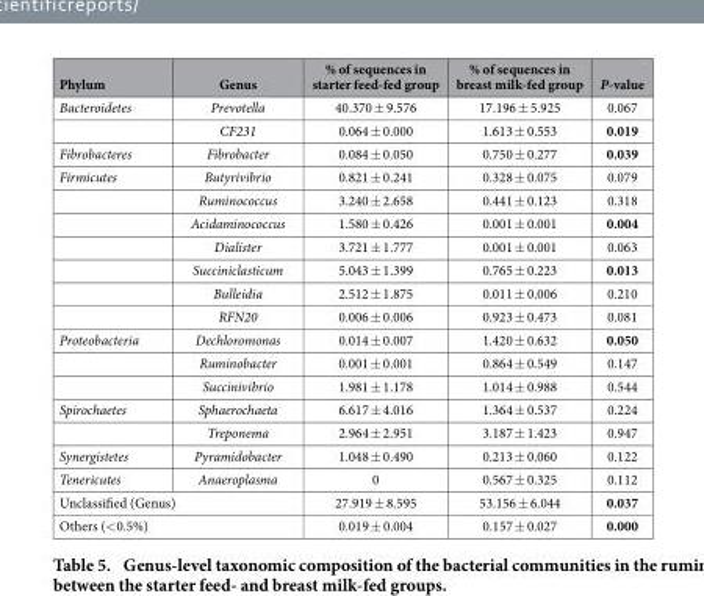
<table><thead><tr><td>Phylum</td><td>Genus</td><td>% of sequences in starter feed-fed group</td><td>% of sequences in breast milk-fed group</td><td>P-value</td></tr></thead><tbody><tr><td rowspan="2">Bacteroidetes</td><td>Prevotella</td><td>40.370 ± 9.576</td><td>17.196 ± 5.925</td><td>0.067</td></tr><tr><td>CF231</td><td>0.064 ± 0.000</td><td>1.613 ± 0.553</td><td>0.019</td></tr><tr><td>Fibrobacteres</td><td>Fibrobacter</td><td>0.084 ± 0.050</td><td>0.750 ± 0.277</td><td>0.039</td></tr><tr><td rowspan="7">Firmicutes</td><td>Butyrivibrio</td><td>0.821 ± 0.241</td><td>0.328 ± 0.075</td><td>0.079</td></tr><tr><td>Ruminococcus</td><td>3.240 ± 2.658</td><td>0.441 ± 0.123</td><td>0.318</td></tr><tr><td>Acidaminococcus</td><td>1.580 ± 0.426</td><td>0.001 ± 0.001</td><td>0.004</td></tr><tr><td>Dialister</td><td>3.721 ± 1.777</td><td>0.001 ± 0.001</td><td>0.063</td></tr><tr><td>Succiniclasticum</td><td>5.043 ± 1.399</td><td>0.765 ± 0.223</td><td>0.013</td></tr><tr><td>Bulleidia</td><td>2.512 ± 1.875</td><td>0.011 ± 0.006</td><td>0.210</td></tr><tr><td>RFN20</td><td>0.006 ± 0.006</td><td>0.923 ± 0.473</td><td>0.081</td></tr><tr><td rowspan="3">Proteobacteria</td><td>Dechloromonas</td><td>0.014 ± 0.007</td><td>1.420 ± 0.632</td><td>0.050</td></tr><tr><td>Ruminobacter</td><td>0.001 ± 0.001</td><td>0.864 ± 0.549</td><td>0.147</td></tr><tr><td>Succinivibrio</td><td>1.981 ± 1.178</td><td>1.014 ± 0.988</td><td>0.544</td></tr><tr><td rowspan="2">Spirochaetes</td><td>Sphaerochaeta</td><td>6.617 ± 4.016</td><td>1.364 ± 0.537</td><td>0.224</td></tr><tr><td>Treponema</td><td>2.964 ± 2.951</td><td>3.187 ± 1.423</td><td>0.947</td></tr><tr><td>Synergistetes</td><td>Pyramidobacter</td><td>1.048 ± 0.490</td><td>0.213 ± 0.060</td><td>0.122</td></tr><tr><td>Tenericutes</td><td>Anaeroplasma</td><td>0</td><td>0.567 ± 0.325</td><td>0.112</td></tr><tr><td colspan="2">Unclassified (Genus)</td><td>27.919 ± 8.595</td><td>53.156 ± 6.044</td><td>0.037</td></tr><tr><td colspan="2">Others (&lt; 0.5%)</td><td>0.019 ± 0.004</td><td>0.157 ± 0.027</td><td>0.000</td></tr></tbody></table>